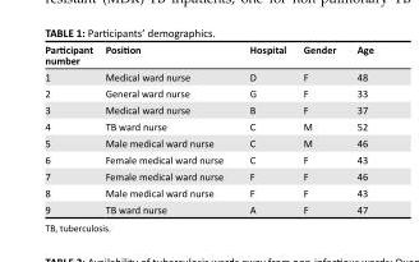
<table><thead><tr><td>Participant number</td><td>Position</td><td>Hospital</td><td>Gender</td><td>Age</td></tr></thead><tbody><tr><td>1</td><td>Medical ward nurse</td><td>D</td><td>F</td><td>48</td></tr><tr><td>2</td><td>General ward nurse</td><td>G</td><td>F</td><td>33</td></tr><tr><td>3</td><td>Medical ward nurse</td><td>B</td><td>F</td><td>37</td></tr><tr><td>4</td><td>TB ward nurse</td><td>C</td><td>M</td><td>52</td></tr><tr><td>5</td><td>Male medical ward nurse</td><td>C</td><td>M</td><td>46</td></tr><tr><td>6</td><td>Female medical ward nurse</td><td>C</td><td>F</td><td>43</td></tr><tr><td>7</td><td>Female medical ward nurse</td><td>F</td><td>F</td><td>46</td></tr><tr><td>8</td><td>Male medical ward nurse</td><td>F</td><td>F</td><td>43</td></tr><tr><td>9</td><td>TB ward nurse</td><td>A</td><td>F</td><td>47</td></tr></tbody></table>